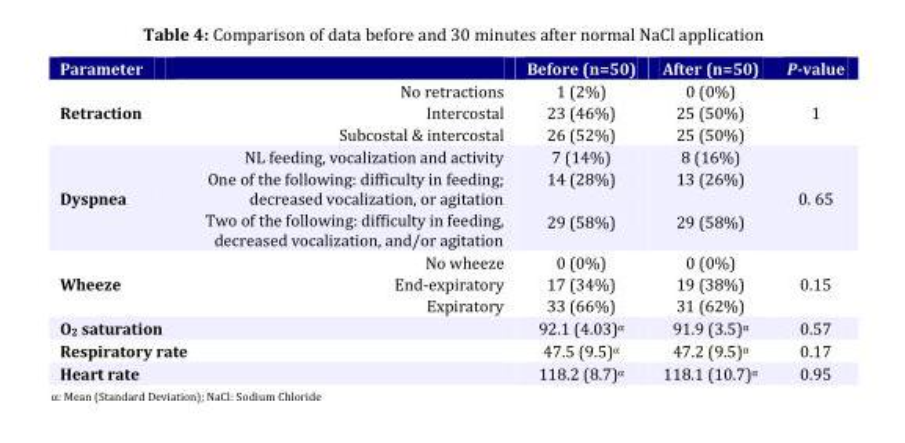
<table><thead><tr><td>Parameter</td><td></td><td>Before (n=50)</td><td>After (n=50)</td><td>P-value</td></tr></thead><tbody><tr><td>Retraction</td><td>No retractions Intercostal Subcostal &amp; intercostal</td><td>1 (2%) 23 (46%) 26 (52%)</td><td>0 (0%) 25 (50%) 25 (50%)</td><td>1</td></tr><tr><td>Dyspnea</td><td>NL feeding, vocalization and activity One of the following: difficulty in feeding; decreased vocalization, or agitation Two of the following: difficulty in feeding, decreased vocalization, and/or agitation</td><td>7 (14%) 14 (28%) 29 (58%)</td><td>8 (16%) 13 (26%) 29 (58%)</td><td>0. 65</td></tr><tr><td>Wheeze</td><td>No wheeze End-expiratory Expiratory</td><td>0 (0%) 17 (34%) 33 (66%)</td><td>0 (0%) 19 (38%) 31 (62%)</td><td>0.15</td></tr><tr><td colspan="2">O<sub>2</sub> saturation</td><td>92.1 (4.03)α</td><td>91.9 (3.5)α</td><td>0.57</td></tr><tr><td colspan="2">Respiratory rate</td><td>47.5 (9.5)α</td><td>47.2 (9.5)α</td><td>0.17</td></tr><tr><td colspan="2">Heart rate</td><td>118.2 (8.7)α</td><td>118.1 (10.7)α</td><td>0.95</td></tr></tbody></table>